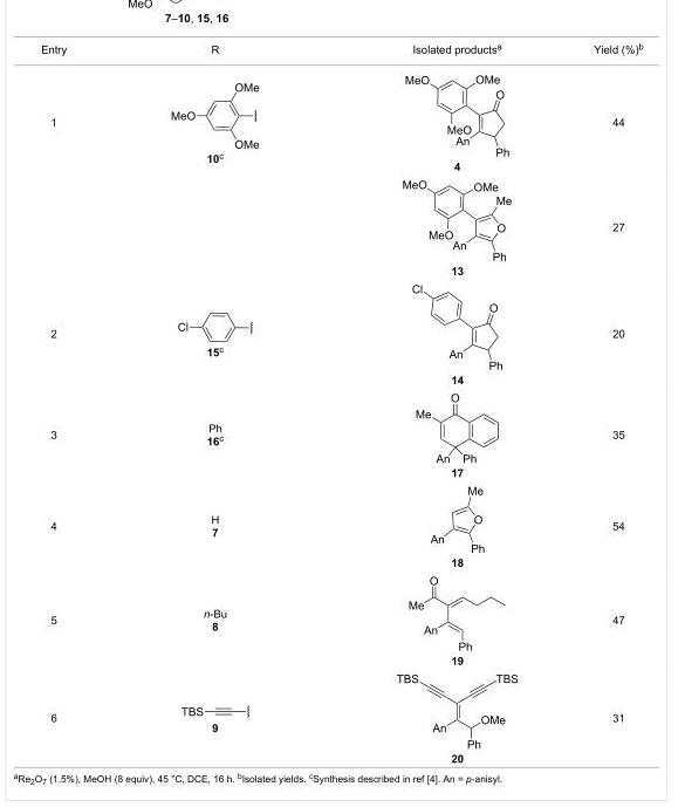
<table><tbody><tr><td>Entry</td><td>R</td><td>Isolated products<sup>a</sup></td><td>Yield (%)<sup>b</sup></td></tr><tr><td rowspan="2">1</td><td>10c</td><td>4</td><td>44</td></tr><tr><td></td><td>13</td><td>27</td></tr><tr><td>2</td><td>15c</td><td>14</td><td>20</td></tr><tr><td>3</td><td>Ph 16<sup>c</sup></td><td>17</td><td>35</td></tr><tr><td>4</td><td>H 7</td><td>18</td><td>54</td></tr><tr><td>5</td><td>n-Bu 8</td><td>19</td><td>47</td></tr><tr><td>6</td><td>9</td><td>20</td><td>31</td></tr></tbody></table>